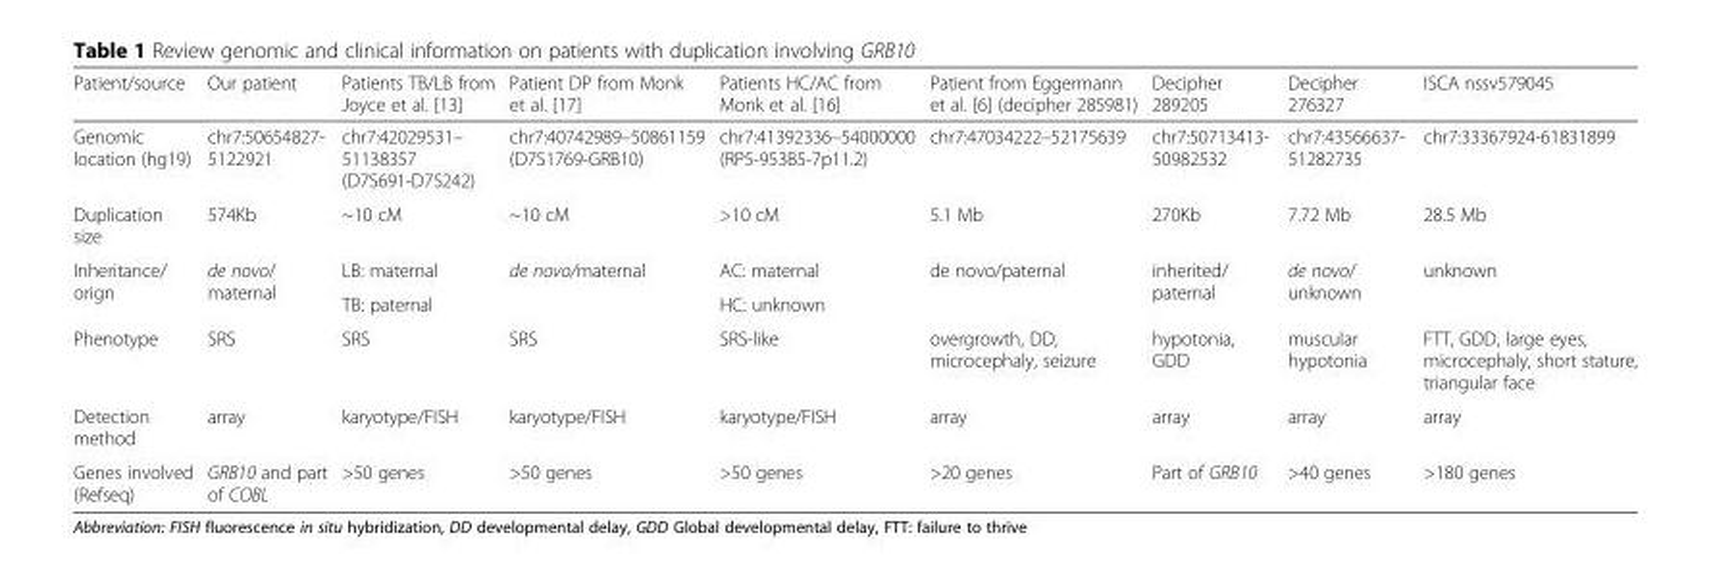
<table><thead><tr><td>Patient/source</td><td>Our patient</td><td>Patients TB/LB from Joyce et al. [13]</td><td>Patient DP from Monk et al. [17]</td><td>Patients HC/AC from Monk et al. [16]</td><td>Patient from Eggermann et al. [6] (decipher 285981)</td><td>Decipher 289205</td><td>Decipher 276327</td><td>ISCA nssv579045</td></tr></thead><tbody><tr><td>Genomic location (hg19)</td><td>chr7:50654827- 5122921</td><td>chr7:42029531– 51138357 (D7S691-D7S242)</td><td>chr7:40742989–50861159 (D7S1769-GRB10)</td><td>chr7:41392336–54000000 (RP5-953B5-7p11.2)</td><td>chr7:47034222–52175639</td><td>chr7:50713413- 50982532</td><td>chr7:43566637- 51282735</td><td>chr7:33367924-61831899</td></tr><tr><td>Duplication size</td><td>574Kb</td><td>~10 cM</td><td>~10 cM</td><td>&gt;10 cM</td><td>5.1 Mb</td><td>270Kb</td><td>7.72 Mb</td><td>28.5 Mb</td></tr><tr><td rowspan="2">Inheritance/ orign</td><td rowspan="2">de novo/ maternal</td><td>LB: maternal</td><td rowspan="2">de novo/maternal</td><td>AC: maternal</td><td rowspan="2">de novo/paternal</td><td rowspan="2">inherited/ paternal</td><td rowspan="2">de novo/ unknown</td><td rowspan="2">unknown</td></tr><tr><td>TB: paternal</td><td>HC: unknown</td></tr><tr><td>Phenotype</td><td>SRS</td><td>SRS</td><td>SRS</td><td>SRS-like</td><td>overgrowth, DD, microcephaly, seizure</td><td>hypotonia, GDD</td><td>muscular hypotonia</td><td>FTT, GDD, large eyes, microcephaly, short stature, triangular face</td></tr><tr><td>Detection method</td><td>array</td><td>karyotype/FISH</td><td>karyotype/FISH</td><td>karyotype/FISH</td><td>array</td><td>array</td><td>array</td><td>array</td></tr><tr><td>Genes involved (Refseq)</td><td>GRB10 and part of COBL</td><td>&gt;50 genes</td><td>&gt;50 genes</td><td>&gt;50 genes</td><td>&gt;20 genes</td><td>Part of GRB10</td><td>&gt;40 genes</td><td>&gt;180 genes</td></tr></tbody></table>